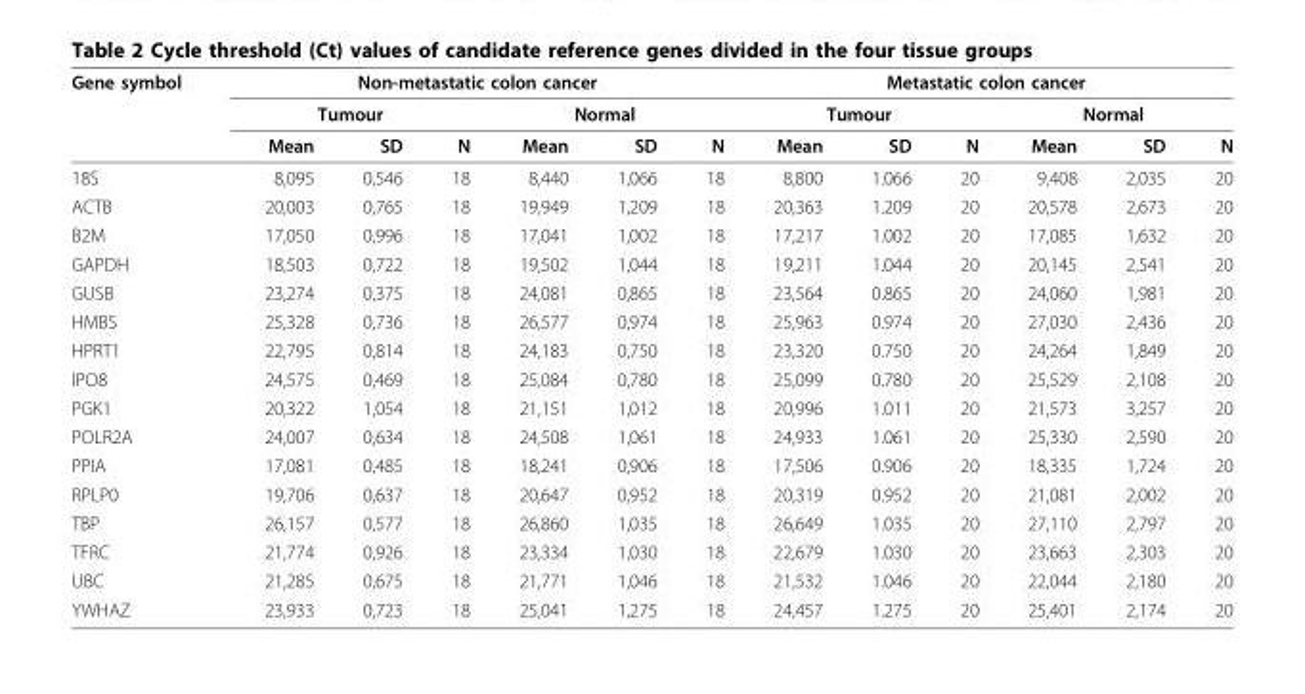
<table><thead><tr><td rowspan="3">Gene symbol</td><td colspan="6">Non-metastatic colon cancer</td><td colspan="6">Metastatic colon cancer</td></tr><tr><td colspan="3">Tumour</td><td colspan="3">Normal</td><td colspan="3">Tumour</td><td colspan="3">Normal</td></tr><tr><td>Mean</td><td>SD</td><td>N</td><td>Mean</td><td>SD</td><td>N</td><td>Mean</td><td>SD</td><td>N</td><td>Mean</td><td>SD</td><td>N</td></tr></thead><tbody><tr><td>18S</td><td>8,095</td><td>0,546</td><td>18</td><td>8,440</td><td>1,066</td><td>18</td><td>8,800</td><td>1.066</td><td>20</td><td>9,408</td><td>2,035</td><td>20</td></tr><tr><td>ACTB</td><td>20,003</td><td>0,765</td><td>18</td><td>19,949</td><td>1,209</td><td>18</td><td>20,363</td><td>1.209</td><td>20</td><td>20,578</td><td>2,673</td><td>20</td></tr><tr><td>B2M</td><td>17,050</td><td>0,996</td><td>18</td><td>17,041</td><td>1,002</td><td>18</td><td>17,217</td><td>1.002</td><td>20</td><td>17,085</td><td>1,632</td><td>20</td></tr><tr><td>GAPDH</td><td>18,503</td><td>0,722</td><td>18</td><td>19,502</td><td>1,044</td><td>18</td><td>19,211</td><td>1.044</td><td>20</td><td>20,145</td><td>2,541</td><td>20</td></tr><tr><td>GUSB</td><td>23,274</td><td>0,375</td><td>18</td><td>24,081</td><td>0,865</td><td>18</td><td>23,564</td><td>0.865</td><td>20</td><td>24,060</td><td>1,981</td><td>20</td></tr><tr><td>HMBS</td><td>25,328</td><td>0,736</td><td>18</td><td>26,577</td><td>0,974</td><td>18</td><td>25,963</td><td>0.974</td><td>20</td><td>27,030</td><td>2,436</td><td>20</td></tr><tr><td>HPRT1</td><td>22,795</td><td>0,814</td><td>18</td><td>24,183</td><td>0,750</td><td>18</td><td>23,320</td><td>0.750</td><td>20</td><td>24,264</td><td>1,849</td><td>20</td></tr><tr><td>IPO8</td><td>24,575</td><td>0,469</td><td>18</td><td>25,084</td><td>0,780</td><td>18</td><td>25,099</td><td>0.780</td><td>20</td><td>25,529</td><td>2,108</td><td>20</td></tr><tr><td>PGK1</td><td>20,322</td><td>1,054</td><td>18</td><td>21,151</td><td>1,012</td><td>18</td><td>20,996</td><td>1.011</td><td>20</td><td>21,573</td><td>3,257</td><td>20</td></tr><tr><td>POLR2A</td><td>24,007</td><td>0,634</td><td>18</td><td>24,508</td><td>1,061</td><td>18</td><td>24,933</td><td>1.061</td><td>20</td><td>25,330</td><td>2,590</td><td>20</td></tr><tr><td>PPIA</td><td>17,081</td><td>0,485</td><td>18</td><td>18,241</td><td>0,906</td><td>18</td><td>17,506</td><td>0.906</td><td>20</td><td>18,335</td><td>1,724</td><td>20</td></tr><tr><td>RPLP0</td><td>19,706</td><td>0,637</td><td>18</td><td>20,647</td><td>0,952</td><td>18</td><td>20,319</td><td>0.952</td><td>20</td><td>21,081</td><td>2,002</td><td>20</td></tr><tr><td>TBP</td><td>26,157</td><td>0,577</td><td>18</td><td>26,860</td><td>1,035</td><td>18</td><td>26,649</td><td>1.035</td><td>20</td><td>27,110</td><td>2,797</td><td>20</td></tr><tr><td>TFRC</td><td>21,774</td><td>0,926</td><td>18</td><td>23,334</td><td>1,030</td><td>18</td><td>22,679</td><td>1.030</td><td>20</td><td>23,663</td><td>2,303</td><td>20</td></tr><tr><td>UBC</td><td>21,285</td><td>0,675</td><td>18</td><td>21,771</td><td>1,046</td><td>18</td><td>21,532</td><td>1.046</td><td>20</td><td>22,044</td><td>2,180</td><td>20</td></tr><tr><td>YWHAZ</td><td>23,933</td><td>0,723</td><td>18</td><td>25,041</td><td>1,275</td><td>18</td><td>24,457</td><td>1.275</td><td>20</td><td>25,401</td><td>2,174</td><td>20</td></tr></tbody></table>